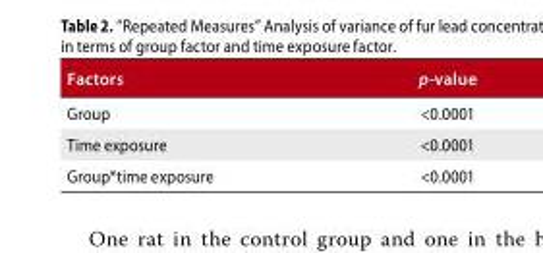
<table><thead><tr><td>Factors</td><td>p-value</td></tr></thead><tbody><tr><td>Group</td><td>&lt;0.0001</td></tr><tr><td>Time exposure</td><td>&lt;0.0001</td></tr><tr><td>Group*time exposure</td><td>&lt;0.0001</td></tr></tbody></table>